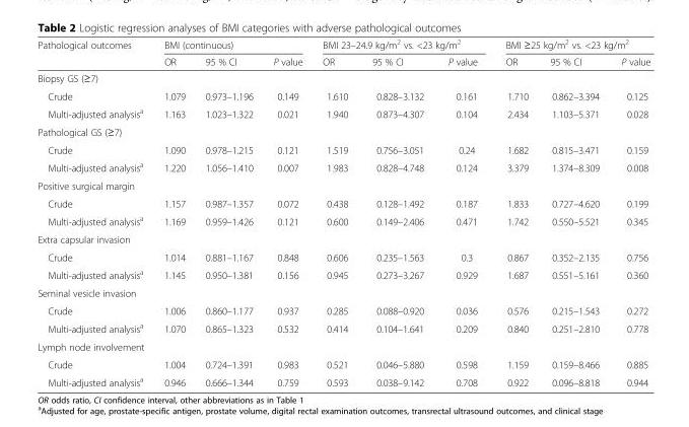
<table><thead><tr><td rowspan="2">Pathological outcomes</td><td colspan="3">BMI (continuous)</td><td colspan="3">BMI 23–24.9 kg/m<sup>2</sup> vs. &lt;23 kg/m<sup>2</sup></td><td colspan="3">BMI ≥25 kg/m<sup>2</sup> vs. &lt;23 kg/m<sup>2</sup></td></tr><tr><td>OR</td><td>95 % CI</td><td>P value</td><td>OR</td><td>95 % CI</td><td>P value</td><td>OR</td><td>95 % CI</td><td>P value</td></tr></thead><tbody><tr><td colspan="10">Biopsy GS (≥7)</td></tr><tr><td>Crude</td><td>1.079</td><td>0.973–1.196</td><td>0.149</td><td>1.610</td><td>0.828–3.132</td><td>0.161</td><td>1.710</td><td>0.862–3.394</td><td>0.125</td></tr><tr><td>Multi-adjusted analysis<sup>a</sup></td><td>1.163</td><td>1.023–1.322</td><td>0.021</td><td>1.940</td><td>0.873–4.307</td><td>0.104</td><td>2.434</td><td>1.103–5.371</td><td>0.028</td></tr><tr><td colspan="10">Pathological GS (≥7)</td></tr><tr><td>Crude</td><td>1.090</td><td>0.978–1.215</td><td>0.121</td><td>1.519</td><td>0.756–3.051</td><td>0.24</td><td>1.682</td><td>0.815–3.471</td><td>0.159</td></tr><tr><td>Multi-adjusted analysis<sup>a</sup></td><td>1.220</td><td>1.056–1.410</td><td>0.007</td><td>1.983</td><td>0.828–4.748</td><td>0.124</td><td>3.379</td><td>1.374–8.309</td><td>0.008</td></tr><tr><td colspan="10">Positive surgical margin</td></tr><tr><td>Crude</td><td>1.157</td><td>0.987–1.357</td><td>0.072</td><td>0.438</td><td>0.128–1.492</td><td>0.187</td><td>1.833</td><td>0.727–4.620</td><td>0.199</td></tr><tr><td>Multi-adjusted analysis<sup>a</sup></td><td>1.169</td><td>0.959–1.426</td><td>0.121</td><td>0.600</td><td>0.149–2.406</td><td>0.471</td><td>1.742</td><td>0.550–5.521</td><td>0.345</td></tr><tr><td colspan="10">Extra capsular invasion</td></tr><tr><td>Crude</td><td>1.014</td><td>0.881–1.167</td><td>0.848</td><td>0.606</td><td>0.235–1.563</td><td>0.3</td><td>0.867</td><td>0.352–2.135</td><td>0.756</td></tr><tr><td>Multi-adjusted analysis<sup>a</sup></td><td>1.145</td><td>0.950–1.381</td><td>0.156</td><td>0.945</td><td>0.273–3.267</td><td>0.929</td><td>1.687</td><td>0.551–5.161</td><td>0.360</td></tr><tr><td colspan="10">Seminal vesicle invasion</td></tr><tr><td>Crude</td><td>1.006</td><td>0.860–1.177</td><td>0.937</td><td>0.285</td><td>0.088–0.920</td><td>0.036</td><td>0.576</td><td>0.215–1.543</td><td>0.272</td></tr><tr><td>Multi-adjusted analysis<sup>a</sup></td><td>1.070</td><td>0.865–1.323</td><td>0.532</td><td>0.414</td><td>0.104–1.641</td><td>0.209</td><td>0.840</td><td>0.251–2.810</td><td>0.778</td></tr><tr><td colspan="10">Lymph node involvement</td></tr><tr><td>Crude</td><td>1.004</td><td>0.724–1.391</td><td>0.983</td><td>0.521</td><td>0.046–5.880</td><td>0.598</td><td>1.159</td><td>0.159–8.466</td><td>0.885</td></tr><tr><td>Multi-adjusted analysis<sup>a</sup></td><td>0.946</td><td>0.666–1.344</td><td>0.759</td><td>0.593</td><td>0.038–9.142</td><td>0.708</td><td>0.922</td><td>0.096–8.818</td><td>0.944</td></tr></tbody></table>